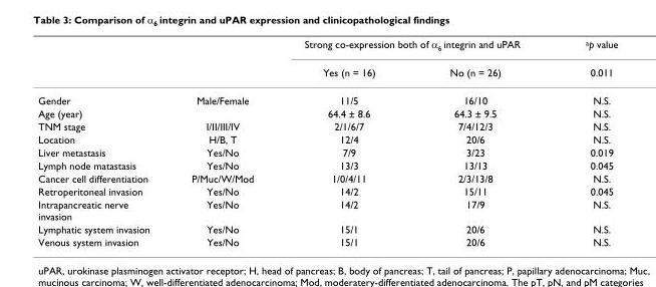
<table><thead><tr><td rowspan="2"></td><td rowspan="2"></td><td colspan="2">Strong co-expression both of α<sub>6</sub> integrin and uPAR</td><td rowspan="2"><sup>a</sup>p value 0.011</td></tr><tr><td>Yes (n = 16)</td><td>No (n = 26)</td></tr></thead><tbody><tr><td>Gender</td><td>Male/Female</td><td>11/5</td><td>16/10</td><td>N.S.</td></tr><tr><td>Age (year)</td><td></td><td>64.4 ± 8.6</td><td>64.3 ± 9.5</td><td>N.S.</td></tr><tr><td>TNM stage</td><td>I/II/III/IV</td><td>2/1/6/7</td><td>7/4/12/3</td><td>N.S.</td></tr><tr><td>Location</td><td>H/B, T</td><td>12/4</td><td>20/6</td><td>N.S.</td></tr><tr><td>Liver metastasis</td><td>Yes/No</td><td>7/9</td><td>3/23</td><td>0.019</td></tr><tr><td>Lymph node matastasis</td><td>Yes/No</td><td>13/3</td><td>13/13</td><td>0.045</td></tr><tr><td>Cancer cell differentiation</td><td>P/Muc/W/Mod</td><td>1/0/4/11</td><td>2/3/13/8</td><td>N.S.</td></tr><tr><td>Retroperitoneal invasion</td><td>Yes/No</td><td>14/2</td><td>15/11</td><td>0.045</td></tr><tr><td>Intrapancreatic nerve invasion</td><td>Yes/No</td><td>14/2</td><td>17/9</td><td>N.S.</td></tr><tr><td>Lymphatic system invasion</td><td>Yes/No</td><td>15/1</td><td>20/6</td><td>N.S.</td></tr><tr><td>Venous system invasion</td><td>Yes/No</td><td>15/1</td><td>20/6</td><td>N.S.</td></tr></tbody></table>